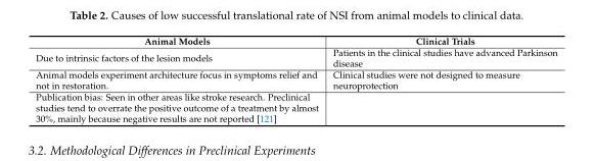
<table><thead><tr><td>Animal Models</td><td>Clinical Trials</td></tr></thead><tbody><tr><td>Due to intrinsic factors of the lesion models</td><td>Patients in the clinical studies have advanced Parkinson disease</td></tr><tr><td>Animal models experiment architecture focus in symptoms relief and not in restoration.</td><td>Clinical studies were not designed to measure neuroprotection</td></tr><tr><td>Publication bias: Seen in other areas like stroke research. Preclinical studies tend to overrate the positive outcome of a treatment by almost 30%, mainly because negative results are not reported [121]</td><td></td></tr></tbody></table>